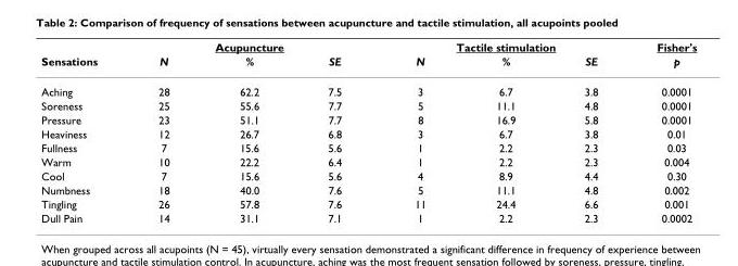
<table><thead><tr><td rowspan="2">Sensations</td><td colspan="3">Acupuncture</td><td colspan="3">Tactile stimulation</td><td rowspan="2">Fisher&#x27;s p</td></tr><tr><td>N</td><td>%</td><td>SE</td><td>N</td><td>%</td><td>SE</td></tr></thead><tbody><tr><td>Aching</td><td>28</td><td>62.2</td><td>7.5</td><td>3</td><td>6.7</td><td>3.8</td><td>0.0001</td></tr><tr><td>Soreness</td><td>25</td><td>55.6</td><td>7.7</td><td>5</td><td>11.1</td><td>4.8</td><td>0.0001</td></tr><tr><td>Pressure</td><td>23</td><td>51.1</td><td>7.7</td><td>8</td><td>16.9</td><td>5.8</td><td>0.0001</td></tr><tr><td>Heaviness</td><td>12</td><td>26.7</td><td>6.8</td><td>3</td><td>6.7</td><td>3.8</td><td>0.01</td></tr><tr><td>Fullness</td><td>7</td><td>15.6</td><td>5.6</td><td>1</td><td>2.2</td><td>2.3</td><td>0.03</td></tr><tr><td>Warm</td><td>10</td><td>22.2</td><td>6.4</td><td>1</td><td>2.2</td><td>2.3</td><td>0.004</td></tr><tr><td>Cool</td><td>7</td><td>15.6</td><td>5.6</td><td>4</td><td>8.9</td><td>4.4</td><td>0.30</td></tr><tr><td>Numbness</td><td>18</td><td>40.0</td><td>7.6</td><td>5</td><td>11.1</td><td>4.8</td><td>0.002</td></tr><tr><td>Tingling</td><td>26</td><td>57.8</td><td>7.6</td><td>11</td><td>24.4</td><td>6.6</td><td>0.001</td></tr><tr><td>Dull Pain</td><td>14</td><td>31.1</td><td>7.1</td><td>1</td><td>2.2</td><td>2.3</td><td>0.0002</td></tr></tbody></table>